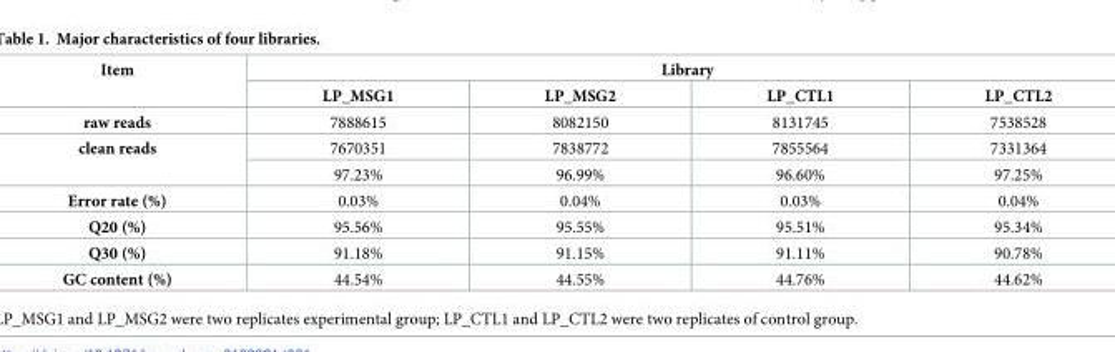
<table><thead><tr><td rowspan="2">Item</td><td colspan="4">Library</td></tr><tr><td>LP_MSG1</td><td>LP_MSG2</td><td>LP_CTL1</td><td>LP_CTL2</td></tr></thead><tbody><tr><td>raw reads</td><td>7888615</td><td>8082150</td><td>8131745</td><td>7538528</td></tr><tr><td rowspan="2">clean reads</td><td>7670351</td><td>7838772</td><td>7855564</td><td>7331364</td></tr><tr><td>97.23%</td><td>96.99%</td><td>96.60%</td><td>97.25%</td></tr><tr><td>Error rate (%)</td><td>0.03%</td><td>0.04%</td><td>0.03%</td><td>0.04%</td></tr><tr><td>Q20 (%)</td><td>95.56%</td><td>95.55%</td><td>95.51%</td><td>95.34%</td></tr><tr><td>Q30 (%)</td><td>91.18%</td><td>91.15%</td><td>91.11%</td><td>90.78%</td></tr><tr><td>GC content (%)</td><td>44.54%</td><td>44.55%</td><td>44.76%</td><td>44.62%</td></tr></tbody></table>